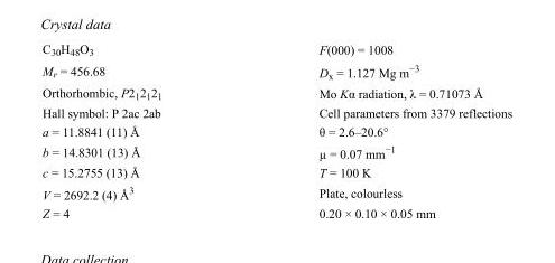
<table><tbody><tr><td>C<sub>30</sub>H<sub>48</sub>O<sub>3</sub></td><td>F(000) = 1008</td></tr><tr><td>M<sub>r</sub> = 456.68</td><td>D<sub>x</sub> = 1.127 Mg m<sup>−3</sup></td></tr><tr><td>Orthorhombic, P2<sub>1</sub>2<sub>1</sub>2<sub>1</sub></td><td>Mo Kα radiation, λ = 0.71073 Å</td></tr><tr><td>Hall symbol: P 2ac 2ab</td><td>Cell parameters from 3379 reflections</td></tr><tr><td>a = 11.8841 (11) Å</td><td>θ = 2.6–20.6°</td></tr><tr><td>b = 14.8301 (13) Å</td><td>µ = 0.07 mm<sup>−1</sup></td></tr><tr><td>c = 15.2755 (13) Å</td><td>T = 100 K</td></tr><tr><td>V = 2692.2 (4) Å<sup>3</sup></td><td>Plate, colourless</td></tr><tr><td>Z = 4</td><td>0.20 × 0.10 × 0.05 mm</td></tr></tbody></table>